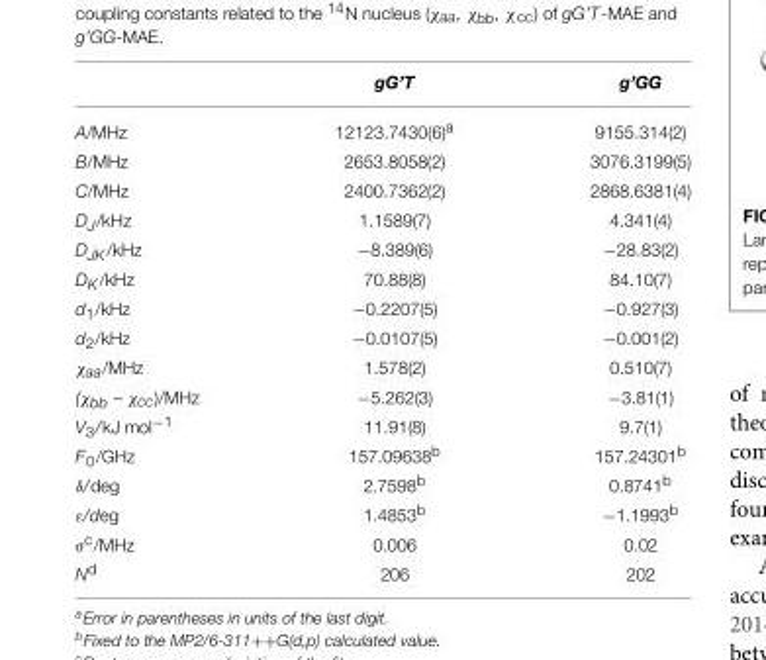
<table><thead><tr><td></td><td>gG’T</td><td>g’GG</td></tr></thead><tbody><tr><td>A/MHz</td><td>12123.7430(6)<sup>a</sup></td><td>9155.314(2)</td></tr><tr><td>B/MHz</td><td>2653.8058(2)</td><td>3076.3199(5)</td></tr><tr><td>C/MHz</td><td>2400.7362(2)</td><td>2868.6381(4)</td></tr><tr><td>DJ/kHz</td><td>1.1589(7)</td><td>4.341(4)</td></tr><tr><td>DJK/kHz</td><td>−8.389(6)</td><td>−28.83(2)</td></tr><tr><td>DK/kHz</td><td>70.88(8)</td><td>84.10(7)</td></tr><tr><td>d<sub>1</sub>/kHz</td><td>−0.2207(5)</td><td>−0.927(3)</td></tr><tr><td>d<sub>2</sub>/kHz</td><td>−0.0107(5)</td><td>−0.001(2)</td></tr><tr><td>χaa/MHz</td><td>1.578(2)</td><td>0.510(7)</td></tr><tr><td>(χbb – χcc)/MHz</td><td>−5.262(3)</td><td>−3.81(1)</td></tr><tr><td>V<sub>3</sub>/kJ mol<sup>−1</sup></td><td>11.91(8)</td><td>9.7(1)</td></tr><tr><td>F<sub>0</sub>/GHz</td><td>157.09638<sup>b</sup></td><td>157.24301<sup>b</sup></td></tr><tr><td>δ/deg</td><td>2.7598<sup>b</sup></td><td>0.8741<sup>b</sup></td></tr><tr><td>ε/deg</td><td>1.4853<sup>b</sup></td><td>−1.1993<sup>b</sup></td></tr><tr><td>σ<sup>c</sup>/MHz</td><td>0.006</td><td>0.02</td></tr><tr><td>N<sup>d</sup></td><td>206</td><td>202</td></tr></tbody></table>